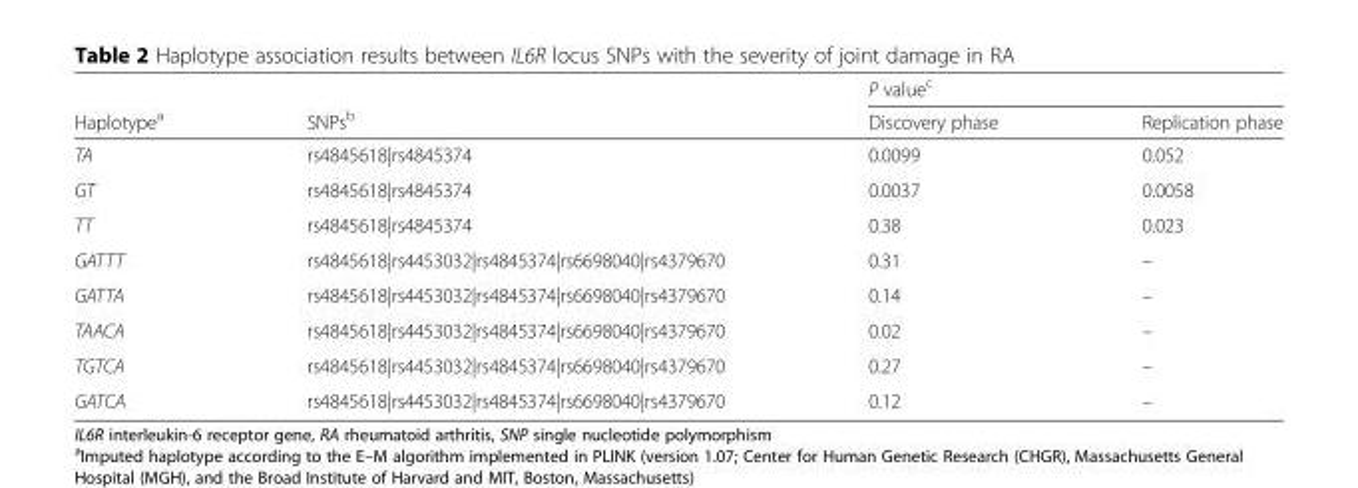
<table><thead><tr><td rowspan="2">Haplotype<sup>a</sup></td><td rowspan="2">SNPs<sup>b</sup></td><td colspan="2">P value<sup>c</sup></td></tr><tr><td>Discovery phase</td><td>Replication phase</td></tr></thead><tbody><tr><td>TA</td><td>rs4845618|rs4845374</td><td>0.0099</td><td>0.052</td></tr><tr><td>GT</td><td>rs4845618|rs4845374</td><td>0.0037</td><td>0.0058</td></tr><tr><td>TT</td><td>rs4845618|rs4845374</td><td>0.38</td><td>0.023</td></tr><tr><td>GATTT</td><td>rs4845618|rs4453032|rs4845374|rs6698040|rs4379670</td><td>0.31</td><td>–</td></tr><tr><td>GATTA</td><td>rs4845618|rs4453032|rs4845374|rs6698040|rs4379670</td><td>0.14</td><td>–</td></tr><tr><td>TAACA</td><td>rs4845618|rs4453032|rs4845374|rs6698040|rs4379670</td><td>0.02</td><td>–</td></tr><tr><td>TGTCA</td><td>rs4845618|rs4453032|rs4845374|rs6698040|rs4379670</td><td>0.27</td><td>–</td></tr><tr><td>GATCA</td><td>rs4845618|rs4453032|rs4845374|rs6698040|rs4379670</td><td>0.12</td><td>–</td></tr></tbody></table>